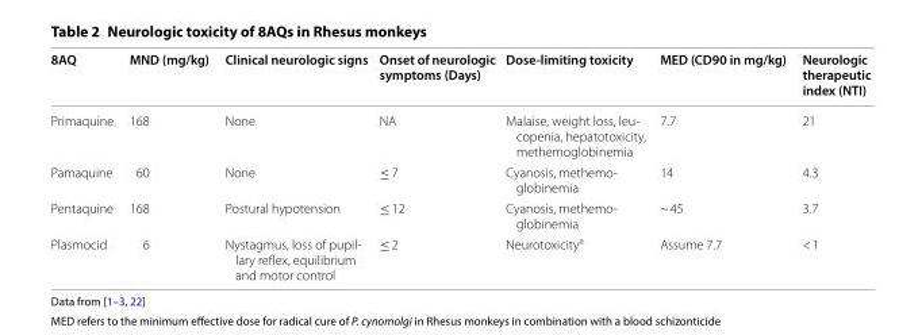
<table><thead><tr><td>8AQ</td><td>MND (mg/kg)</td><td>Clinical neurologic signs</td><td>Onset of neurologic symptoms (Days)</td><td>Dose-limiting toxicity</td><td>MED (CD90 in mg/kg)</td><td>Neurologic therapeutic index (NTI)</td></tr></thead><tbody><tr><td>Primaquine</td><td>168</td><td>None</td><td>NA</td><td>Malaise, weight loss, leu- copenia, hepatotoxicity, methemoglobinemia</td><td>7.7</td><td>21</td></tr><tr><td>Pamaquine</td><td>60</td><td>None</td><td>≤ 7</td><td>Cyanosis, methemo- globinemia</td><td>14</td><td>4.3</td></tr><tr><td>Pentaquine</td><td>168</td><td>Postural hypotension</td><td>≤ 12</td><td>Cyanosis, methemo- globinemia</td><td>~ 45</td><td>3.7</td></tr><tr><td>Plasmocid</td><td>6</td><td>Nystagmus, loss of pupil- lary reflex, equilibrium and motor control</td><td>≤ 2</td><td>Neurotoxicity<sup>a</sup></td><td>Assume 7.7</td><td>&lt; 1</td></tr></tbody></table>